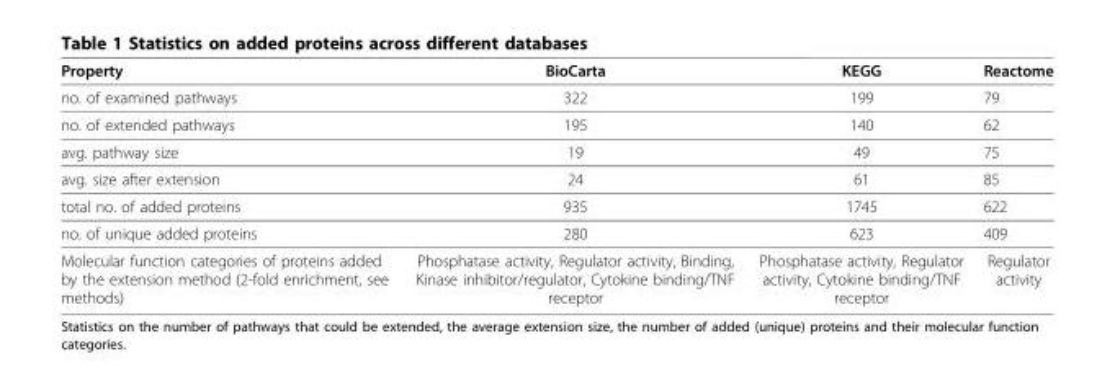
<table><thead><tr><td>Property</td><td>BioCarta</td><td>KEGG</td><td>Reactome</td></tr></thead><tbody><tr><td>no. of examined pathways</td><td>322</td><td>199</td><td>79</td></tr><tr><td>no. of extended pathways</td><td>195</td><td>140</td><td>62</td></tr><tr><td>avg. pathway size</td><td>19</td><td>49</td><td>75</td></tr><tr><td>avg. size after extension</td><td>24</td><td>61</td><td>85</td></tr><tr><td>total no. of added proteins</td><td>935</td><td>1745</td><td>622</td></tr><tr><td>no. of unique added proteins</td><td>280</td><td>623</td><td>409</td></tr><tr><td>Molecular function categories of proteins added by the extension method (2-fold enrichment, see methods)</td><td>Phosphatase activity, Regulator activity, Binding, Kinase inhibitor/regulator, Cytokine binding/TNF receptor</td><td>Phosphatase activity, Regulator activity, Cytokine binding/TNF receptor</td><td>Regulator activity</td></tr></tbody></table>